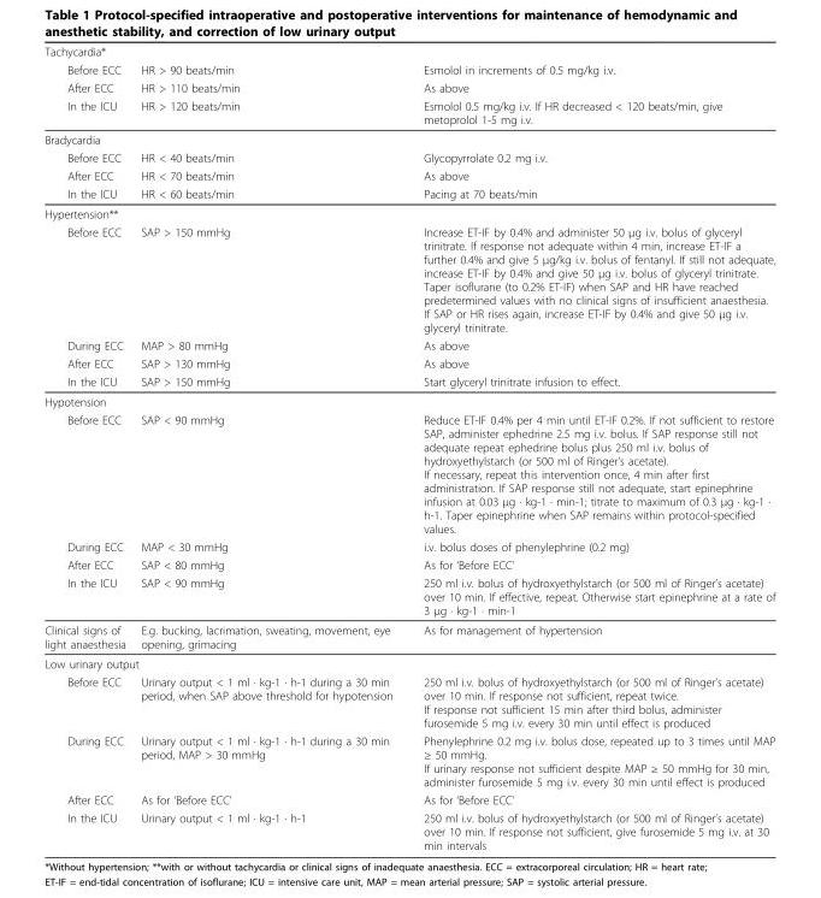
<table><thead><tr><td rowspan="4">Tachycardia* Before ECC After ECC In the ICU</td><td rowspan="4">HR &gt; 90 beats/min HR &gt; 110 beats/min HR &gt; 120 beats/min</td><td rowspan="4">Esmolol in increments of 0.5 mg/kg i.v. As above Esmolol 0.5 mg/kg i.v. If HR decreased &lt; 120 beats/min, give metoprolol 1-5 mg i.v.</td></tr><tr></tr><tr></tr><tr></tr></thead><tbody><tr><td colspan="3">Bradycardia</td></tr><tr><td>Before ECC</td><td>HR &lt; 40 beats/min</td><td>Glycopyrrolate 0.2 mg i.v.</td></tr><tr><td>After ECC</td><td>HR &lt; 70 beats/min</td><td>As above</td></tr><tr><td>In the ICU</td><td>HR &lt; 60 beats/min</td><td>Pacing at 70 beats/min</td></tr><tr><td colspan="3">Hypertension**</td></tr><tr><td>Before ECC</td><td>SAP &gt; 150 mmHg</td><td>Increase ET-IF by 0.4% and administer 50 μg i.v. bolus of glyceryl trinitrate. If response not adequate within 4 min, increase ET-IF a further 0.4% and give 5 μg/kg i.v. bolus of fentanyl. If still not adequate, increase ET-IF by 0.4% and give 50 μg i.v. bolus of glyceryl trinitrate. Taper isoflurane (to 0.2% ET-IF) when SAP and HR have reached predetermined values with no clinical signs of insufficient anaesthesia. If SAP or HR rises again, increase ET-IF by 0.4% and give 50 μg i.v. glyceryl trinitrate.</td></tr><tr><td>During ECC</td><td>MAP &gt; 80 mmHg</td><td>As above</td></tr><tr><td>After ECC</td><td>SAP &gt; 130 mmHg</td><td>As above</td></tr><tr><td>In the ICU</td><td>SAP &gt; 150 mmHg</td><td>Start glyceryl trinitrate infusion to effect.</td></tr><tr><td colspan="3">Hypotension</td></tr><tr><td>Before ECC</td><td>SAP &lt; 90 mmHg</td><td>Reduce ET-IF 0.4% per 4 min until ET-IF 0.2%. If not sufficient to restore SAP, administer ephedrine 2.5 mg i.v. bolus. If SAP response still not adequate repeat ephedrine bolus plus 250 ml i.v. bolus of hydroxyethylstarch (or 500 ml of Ringer’s acetate). If necessary, repeat this intervention once, 4 min after first administration. If SAP response still not adequate, start epinephrine infusion at 0.03 μg · kg-1 · min-1; titrate to maximum of 0.3 μg · kg-1 · h-1. Taper epinephrine when SAP remains within protocol-specified values.</td></tr><tr><td>During ECC</td><td>MAP &lt; 30 mmHg</td><td>i.v. bolus doses of phenylephrine (0.2 mg)</td></tr><tr><td>After ECC</td><td>SAP &lt; 80 mmHg</td><td>As for ‘Before ECC’</td></tr><tr><td>In the ICU</td><td>SAP &lt; 90 mmHg</td><td>250 ml i.v. bolus of hydroxyethylstarch (or 500 ml of Ringer’s acetate) over 10 min. If effective, repeat. Otherwise start epinephrine at a rate of 3 μg · kg-1 · min-1</td></tr><tr><td>Clinical signs of light anaesthesia</td><td>E.g. bucking, lacrimation, sweating, movement, eye opening, grimacing</td><td>As for management of hypertension</td></tr><tr><td colspan="3">Low urinary output</td></tr><tr><td>Before ECC</td><td>Urinary output &lt; 1 ml · kg-1 · h-1 during a 30 min period, when SAP above threshold for hypotension</td><td>250 ml i.v. bolus of hydroxyethylstarch (or 500 ml of Ringer’s acetate) over 10 min. If response not sufficient, repeat twice. If response not sufficient 15 min after third bolus, administer furosemide 5 mg i.v. every 30 min until effect is produced</td></tr><tr><td>During ECC</td><td>Urinary output &lt; 1 ml · kg-1 · h-1 during a 30 min period, MAP &gt; 30 mmHg</td><td>Phenylephrine 0.2 mg i.v. bolus dose, repeated up to 3 times until MAP ≥ 50 mmHg. If urinary response not sufficient despite MAP ≥ 50 mmHg for 30 min, administer furosemide 5 mg i.v. every 30 min until effect is produced</td></tr><tr><td>After ECC</td><td>As for ‘Before ECC’</td><td>As for ‘Before ECC’</td></tr><tr><td>In the ICU</td><td>Urinary output &lt; 1 ml · kg-1 · h-1</td><td>250 ml i.v. bolus of hydroxyethylstarch (or 500 ml of Ringer’s acetate) over 10 min. If response not sufficient, give furosemide 5 mg i.v. at 30 min intervals</td></tr></tbody></table>